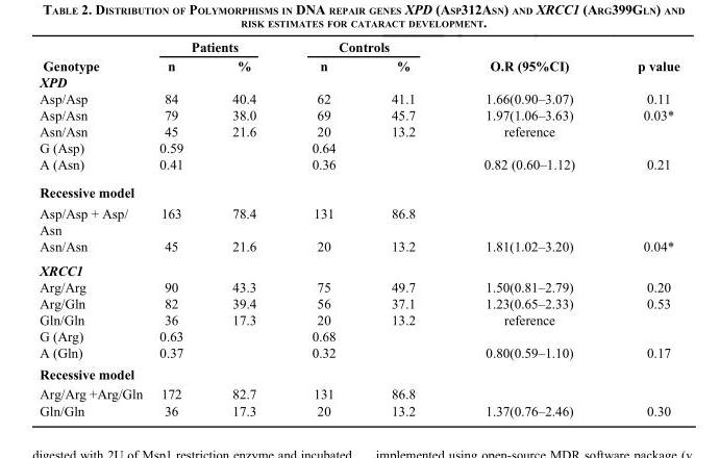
<table><thead><tr><td rowspan="2">Genotype</td><td colspan="2">Patients</td><td colspan="2">Controls</td><td rowspan="2">O.R (95%CI)</td><td rowspan="2">p value</td></tr><tr><td>n</td><td>%</td><td>n</td><td>%</td></tr></thead><tbody><tr><td colspan="7">XPD</td></tr><tr><td>Asp/Asp</td><td>84</td><td>40.4</td><td>62</td><td>41.1</td><td>1.66(0.90–3.07)</td><td>0.11</td></tr><tr><td>Asp/Asn</td><td>79</td><td>38.0</td><td>69</td><td>45.7</td><td>1.97(1.06–3.63)</td><td>0.03*</td></tr><tr><td>Asn/Asn</td><td>45</td><td>21.6</td><td>20</td><td>13.2</td><td>reference</td><td></td></tr><tr><td>G (Asp)</td><td colspan="2">0.59</td><td colspan="2">0.64</td><td></td><td></td></tr><tr><td>A (Asn)</td><td colspan="2">0.41</td><td colspan="2">0.36</td><td>0.82 (0.60–1.12)</td><td>0.21</td></tr><tr><td colspan="7">Recessive model</td></tr><tr><td>Asp/Asp + Asp/ Asn</td><td>163</td><td>78.4</td><td>131</td><td>86.8</td><td></td><td></td></tr><tr><td>Asn/Asn</td><td>45</td><td>21.6</td><td>20</td><td>13.2</td><td>1.81(1.02–3.20)</td><td>0.04*</td></tr><tr><td colspan="7">XRCC1</td></tr><tr><td>Arg/Arg</td><td>90</td><td>43.3</td><td>75</td><td>49.7</td><td>1.50(0.81–2.79)</td><td>0.20</td></tr><tr><td>Arg/Gln</td><td>82</td><td>39.4</td><td>56</td><td>37.1</td><td>1.23(0.65–2.33)</td><td>0.53</td></tr><tr><td>Gln/Gln</td><td>36</td><td>17.3</td><td>20</td><td>13.2</td><td>reference</td><td></td></tr><tr><td>G (Arg)</td><td colspan="2">0.63</td><td colspan="2">0.68</td><td></td><td></td></tr><tr><td>A (Gln)</td><td colspan="2">0.37</td><td colspan="2">0.32</td><td>0.80(0.59–1.10)</td><td>0.17</td></tr><tr><td colspan="7">Recessive model</td></tr><tr><td>Arg/Arg +Arg/Gln</td><td>172</td><td>82.7</td><td>131</td><td>86.8</td><td></td><td></td></tr><tr><td>Gln/Gln</td><td>36</td><td>17.3</td><td>20</td><td>13.2</td><td>1.37(0.76–2.46)</td><td>0.30</td></tr></tbody></table>